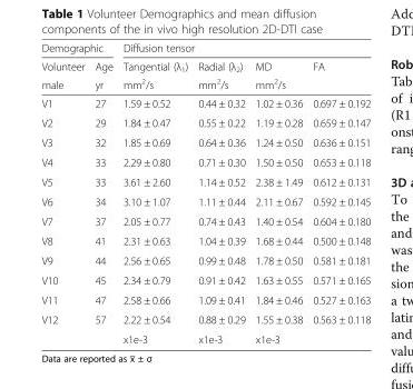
<table><thead><tr><td colspan="2">Demographic</td><td colspan="4">Diffusion tensor</td></tr><tr><td rowspan="2">Volunteer male</td><td rowspan="2">Age yr</td><td rowspan="2">Tangential (λ<sub>1</sub>) mm<sup>2</sup>/s</td><td rowspan="2">Radial (λ<sub>2</sub>) mm<sup>2</sup>/s</td><td rowspan="2">MD mm<sup>2</sup>/s</td><td rowspan="2">FA</td></tr><tr></tr></thead><tbody><tr><td>V1</td><td>27</td><td>1.59 ± 0.52</td><td>0.44 ± 0.32</td><td>1.02 ± 0.36</td><td>0.697 ± 0.192</td></tr><tr><td>V2</td><td>29</td><td>1.84 ± 0.47</td><td>0.55 ± 0.22</td><td>1.19 ± 0.28</td><td>0.659 ± 0.147</td></tr><tr><td>V3</td><td>32</td><td>1.85 ± 0.69</td><td>0.64 ± 0.36</td><td>1.24 ± 0.50</td><td>0.636 ± 0.151</td></tr><tr><td>V4</td><td>33</td><td>2.29 ± 0.80</td><td>0.71 ± 0.30</td><td>1.50 ± 0.50</td><td>0.653 ± 0.118</td></tr><tr><td>V5</td><td>33</td><td>3.61 ± 2.60</td><td>1.14 ± 0.52</td><td>2.38 ± 1.49</td><td>0.612 ± 0.131</td></tr><tr><td>V6</td><td>34</td><td>3.10 ± 1.07</td><td>1.11 ± 0.44</td><td>2.11 ± 0.67</td><td>0.592 ± 0.145</td></tr><tr><td>V7</td><td>37</td><td>2.05 ± 0.77</td><td>0.74 ± 0.43</td><td>1.40 ± 0.54</td><td>0.604 ± 0.180</td></tr><tr><td>V8</td><td>41</td><td>2.31 ± 0.63</td><td>1.04 ± 0.39</td><td>1.68 ± 0.44</td><td>0.500 ± 0.148</td></tr><tr><td>V9</td><td>44</td><td>2.56 ± 0.65</td><td>0.99 ± 0.48</td><td>1.78 ± 0.50</td><td>0.581 ± 0.181</td></tr><tr><td>V10</td><td>45</td><td>2.34 ± 0.79</td><td>0.91 ± 0.42</td><td>1.63 ± 0.55</td><td>0.571 ± 0.165</td></tr><tr><td>V11</td><td>47</td><td>2.58 ± 0.66</td><td>1.09 ± 0.41</td><td>1.84 ± 0.46</td><td>0.527 ± 0.163</td></tr><tr><td rowspan="2">V12</td><td>57</td><td>2.22 ± 0.54</td><td>0.88 ± 0.29</td><td>1.55 ± 0.38</td><td>0.563 ± 0.118</td></tr><tr><td></td><td>x1e-3</td><td>x1e-3</td><td>x1e-3</td><td></td></tr></tbody></table>